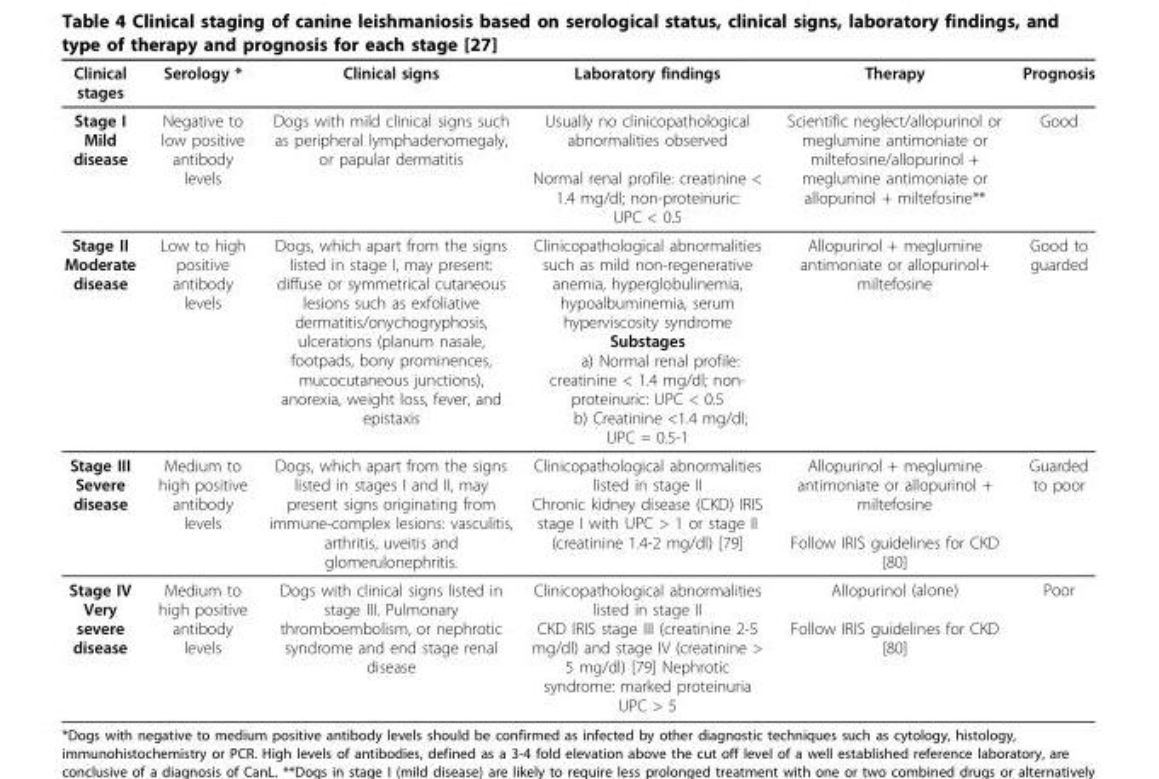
<table><thead><tr><td>Clinical stages</td><td>Serology *</td><td>Clinical signs</td><td>Laboratory findings</td><td>Therapy</td><td>Prognosis</td></tr></thead><tbody><tr><td>Stage I Mild disease</td><td>Negative to low positive antibody levels</td><td>Dogs with mild clinical signs such as peripheral lymphadenomegaly, or papular dermatitis</td><td>Usually no clinicopathological abnormalities observed Normal renal profile: creatinine &lt; 1.4 mg/dl; non-proteinuric: UPC &lt; 0.5</td><td>Scientific neglect/allopurinol or meglumine antimoniate or miltefosine/allopurinol + meglumine antimoniate or allopurinol + miltefosine**</td><td>Good</td></tr><tr><td>Stage II Moderate disease</td><td>Low to high positive antibody levels</td><td>Dogs, which apart from the signs listed in stage I, may present: diffuse or symmetrical cutaneous lesions such as exfoliative dermatitis/onychogryphosis, ulcerations (planum nasale, footpads, bony prominences, mucocutaneous junctions), anorexia, weight loss, fever, and epistaxis</td><td>Clinicopathological abnormalities such as mild non-regenerative anemia, hyperglobulinemia, hypoalbuminemia, serum hyperviscosity syndrome Substages a) Normal renal profile: creatinine &lt; 1.4 mg/dl; non- proteinuric: UPC &lt; 0.5 b) Creatinine &lt;1.4 mg/dl; UPC = 0.5-1</td><td>Allopurinol + meglumine antimoniate or allopurinol+ miltefosine</td><td>Good to guarded</td></tr><tr><td>Stage III Severe disease</td><td>Medium to high positive antibody levels</td><td>Dogs, which apart from the signs listed in stages I and II, may present signs originating from immune-complex lesions: vasculitis, arthritis, uveitis and glomerulonephritis.</td><td>Clinicopathological abnormalities listed in stage II Chronic kidney disease (CKD) IRIS stage I with UPC &gt; 1 or stage II (creatinine 1.4-2 mg/dl) [79]</td><td>Allopurinol + meglumine antimoniate or allopurinol + miltefosine Follow IRIS guidelines for CKD [80]</td><td>Guarded to poor</td></tr><tr><td>Stage IV Very severe disease</td><td>Medium to high positive antibody levels</td><td>Dogs with clinical signs listed in stage III. Pulmonary thromboembolism, or nephrotic syndrome and end stage renal disease</td><td>Clinicopathological abnormalities listed in stage II CKD IRIS stage III (creatinine 2-5 mg/dl) and stage IV (creatinine &gt; 5 mg/dl) [79] Nephrotic syndrome: marked proteinuria UPC &gt; 5</td><td>Allopurinol (alone) Follow IRIS guidelines for CKD [80]</td><td>Poor</td></tr></tbody></table>